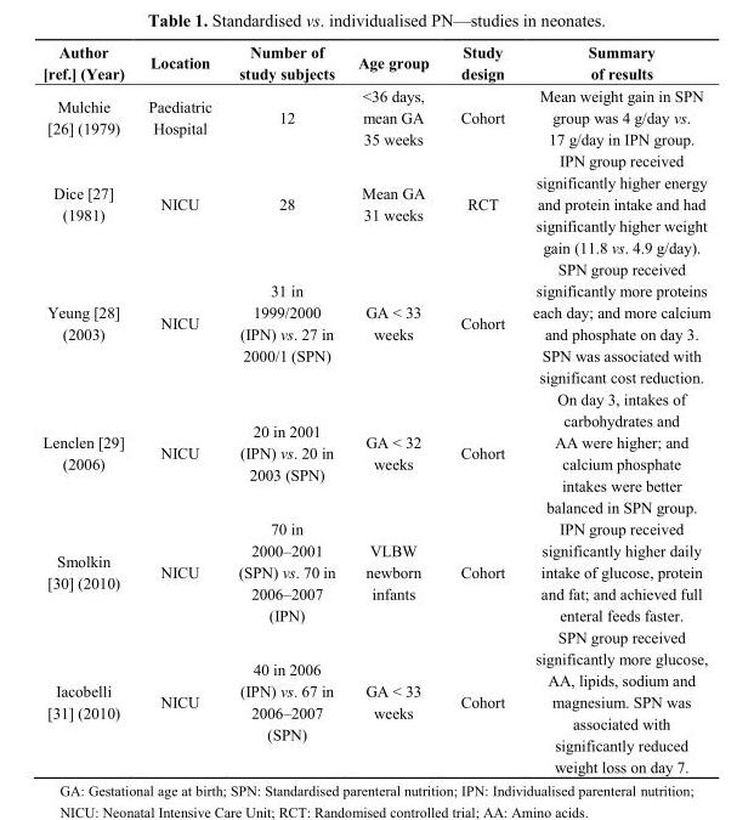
<table><thead><tr><td>Author [ref.] (Year)</td><td>Location</td><td>Number of study subjects</td><td>Age group</td><td>Study design</td><td>Summary of results</td></tr></thead><tbody><tr><td>Mulchie [26] (1979)</td><td>Paediatric Hospital</td><td>12</td><td>&lt;36 days, mean GA 35 weeks</td><td>Cohort</td><td>Mean weight gain in SPN group was 4 g/day vs. 17 g/day in IPN group.</td></tr><tr><td>Dice [27] (1981)</td><td>NICU</td><td>28</td><td>Mean GA 31 weeks</td><td>RCT</td><td>IPN group received significantly higher energy and protein intake and had significantly higher weight gain (11.8 vs. 4.9 g/day).</td></tr><tr><td>Yeung [28] (2003)</td><td>NICU</td><td>31 in 1999/2000 (IPN) vs. 27 in 2000/1 (SPN)</td><td>GA &lt; 33 weeks</td><td>Cohort</td><td>SPN group received significantly more proteins each day; and more calcium and phosphate on day 3. SPN was associated with significant cost reduction.</td></tr><tr><td>Lenclen [29] (2006)</td><td>NICU</td><td>20 in 2001 (IPN) vs. 20 in 2003 (SPN)</td><td>GA &lt; 32 weeks</td><td>Cohort</td><td>On day 3, intakes of carbohydrates and AA were higher; and calcium phosphate intakes were better balanced in SPN group.</td></tr><tr><td>Smolkin [30] (2010)</td><td>NICU</td><td>70 in 2000–2001 (SPN) vs. 70 in 2006–2007 (IPN)</td><td>VLBW newborn infants</td><td>Cohort</td><td>IPN group received significantly higher daily intake of glucose, protein and fat; and achieved full enteral feeds faster.</td></tr><tr><td>Iacobelli [31] (2010)</td><td>NICU</td><td>40 in 2006 (IPN) vs. 67 in 2006–2007 (SPN)</td><td>GA &lt; 33 weeks</td><td>Cohort</td><td>SPN group received significantly more glucose, AA, lipids, sodium and magnesium. SPN was associated with significantly reduced weight loss on day 7.</td></tr></tbody></table>